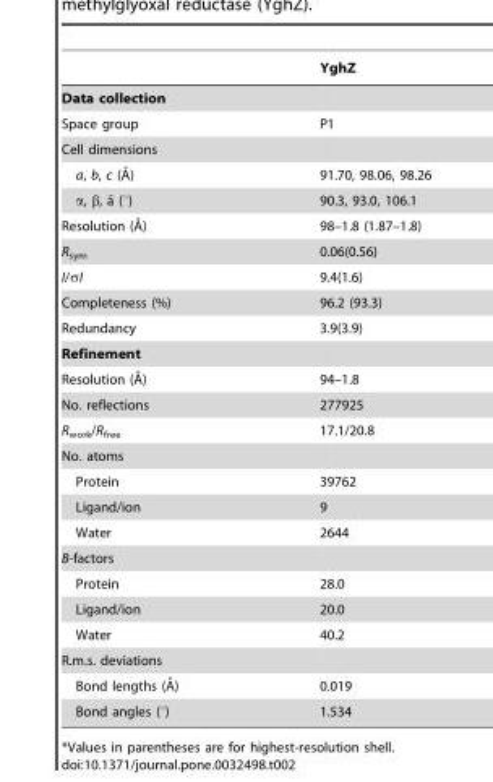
<table><thead><tr><td></td><td>YghZ</td></tr></thead><tbody><tr><td colspan="2">Data collection</td></tr><tr><td>Space group</td><td>P1</td></tr><tr><td colspan="2">Cell dimensions</td></tr><tr><td>a, b, c (A˚)</td><td>91.70, 98.06, 98.26</td></tr><tr><td>a, b, a˜ (u)</td><td>90.3, 93.0, 106.1</td></tr><tr><td>Resolution (A˚)</td><td>98–1.8 (1.87–1.8)</td></tr><tr><td>R<sub>sym</sub></td><td>0.06(0.56)</td></tr><tr><td>I/σI</td><td>9.4(1.6)</td></tr><tr><td>Completeness (%)</td><td>96.2 (93.3)</td></tr><tr><td>Redundancy</td><td>3.9(3.9)</td></tr><tr><td colspan="2">Refinement</td></tr><tr><td>Resolution (A˚)</td><td>94–1.8</td></tr><tr><td>No. reflections</td><td>277925</td></tr><tr><td>R<sub>work</sub>/R<sub>free</sub></td><td>17.1/20.8</td></tr><tr><td colspan="2">No. atoms</td></tr><tr><td>Protein</td><td>39762</td></tr><tr><td>Ligand/ion</td><td>9</td></tr><tr><td>Water</td><td>2644</td></tr><tr><td colspan="2">B-factors</td></tr><tr><td>Protein</td><td>28.0</td></tr><tr><td>Ligand/ion</td><td>20.0</td></tr><tr><td>Water</td><td>40.2</td></tr><tr><td colspan="2">R.m.s. deviations</td></tr><tr><td>Bond lengths (A˚)</td><td>0.019</td></tr><tr><td>Bond angles (°)</td><td>1.534</td></tr></tbody></table>